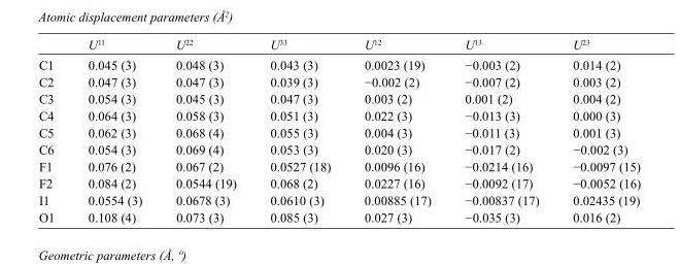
<table><thead><tr><td></td><td>U<sup>11</sup></td><td>U<sup>22</sup></td><td>U<sup>33</sup></td><td>U<sup>12</sup></td><td>U<sup>13</sup></td><td>U<sup>23</sup></td></tr></thead><tbody><tr><td>C1</td><td>0.045 (3)</td><td>0.048 (3)</td><td>0.043 (3)</td><td>0.0023 (19)</td><td>−0.003 (2)</td><td>0.014 (2)</td></tr><tr><td>C2</td><td>0.047 (3)</td><td>0.047 (3)</td><td>0.039 (3)</td><td>−0.002 (2)</td><td>−0.007 (2)</td><td>0.003 (2)</td></tr><tr><td>C3</td><td>0.054 (3)</td><td>0.045 (3)</td><td>0.047 (3)</td><td>0.003 (2)</td><td>0.001 (2)</td><td>0.004 (2)</td></tr><tr><td>C4</td><td>0.064 (3)</td><td>0.058 (3)</td><td>0.051 (3)</td><td>0.022 (3)</td><td>−0.013 (3)</td><td>0.000 (3)</td></tr><tr><td>C5</td><td>0.062 (3)</td><td>0.068 (4)</td><td>0.055 (3)</td><td>0.004 (3)</td><td>−0.011 (3)</td><td>0.001 (3)</td></tr><tr><td>C6</td><td>0.054 (3)</td><td>0.069 (4)</td><td>0.053 (3)</td><td>0.020 (3)</td><td>−0.017 (2)</td><td>−0.002 (3)</td></tr><tr><td>F1</td><td>0.076 (2)</td><td>0.067 (2)</td><td>0.0527 (18)</td><td>0.0096 (16)</td><td>−0.0214 (16)</td><td>−0.0097 (15)</td></tr><tr><td>F2</td><td>0.084 (2)</td><td>0.0544 (19)</td><td>0.068 (2)</td><td>0.0227 (16)</td><td>−0.0092 (17)</td><td>−0.0052 (16)</td></tr><tr><td>I1</td><td>0.0554 (3)</td><td>0.0678 (3)</td><td>0.0610 (3)</td><td>0.00885 (17)</td><td>−0.00837 (17)</td><td>0.02435 (19)</td></tr><tr><td>O1</td><td>0.108 (4)</td><td>0.073 (3)</td><td>0.085 (3)</td><td>0.027 (3)</td><td>−0.035 (3)</td><td>0.016 (2)</td></tr></tbody></table>